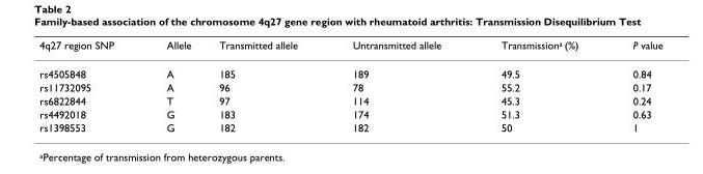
<table><thead><tr><td>4q27 region SNP</td><td>Allele</td><td>Transmitted allele</td><td>Untransmitted allele</td><td>Transmission<sup>a</sup> (%)</td><td>P value</td></tr></thead><tbody><tr><td>rs4505848</td><td>A</td><td>185</td><td>189</td><td>49.5</td><td>0.84</td></tr><tr><td>rs11732095</td><td>A</td><td>96</td><td>78</td><td>55.2</td><td>0.17</td></tr><tr><td>rs6822844</td><td>T</td><td>97</td><td>114</td><td>45.3</td><td>0.24</td></tr><tr><td>rs4492018</td><td>G</td><td>183</td><td>174</td><td>51.3</td><td>0.63</td></tr><tr><td>rs1398553</td><td>G</td><td>182</td><td>182</td><td>50</td><td>1</td></tr></tbody></table>